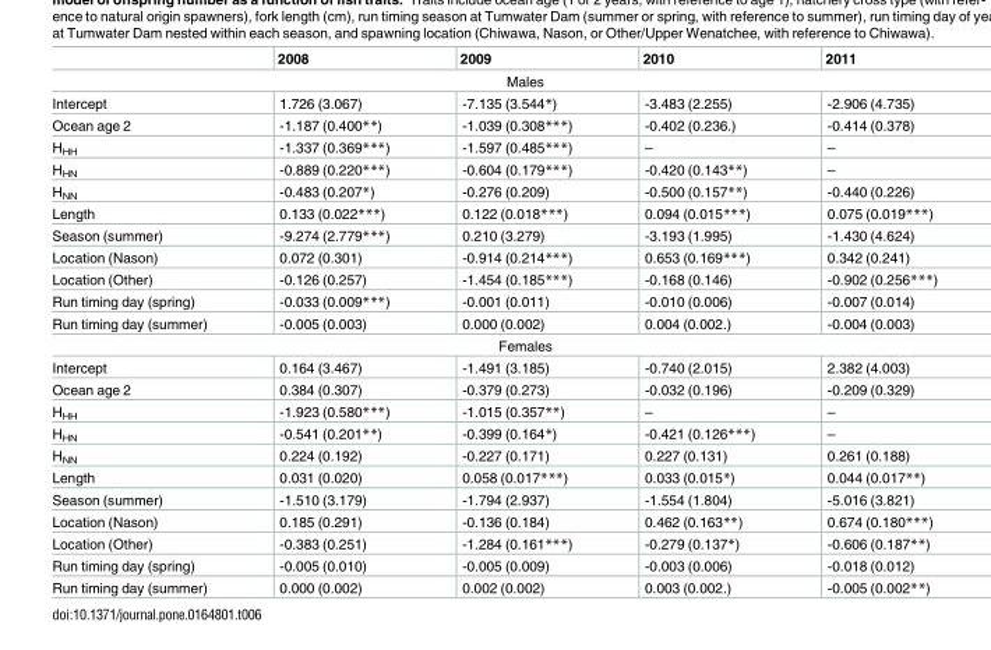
<table><thead><tr><td></td><td>2008</td><td>2009</td><td>2010</td><td>2011</td></tr></thead><tbody><tr><td colspan="5">Males</td></tr><tr><td>Intercept</td><td>1.726 (3.067)</td><td>-7.135 (3.544*)</td><td>-3.483 (2.255)</td><td>-2.906 (4.735)</td></tr><tr><td>Ocean age 2</td><td>-1.187 (0.400**)</td><td>-1.039 (0.308***)</td><td>-0.402 (0.236.)</td><td>-0.414 (0.378)</td></tr><tr><td>H<sub>HH</sub></td><td>-1.337 (0.369***)</td><td>-1.597 (0.485***)</td><td>–</td><td>–</td></tr><tr><td>H<sub>HN</sub></td><td>-0.889 (0.220***)</td><td>-0.604 (0.179***)</td><td>-0.420 (0.143**)</td><td>–</td></tr><tr><td>H<sub>NN</sub></td><td>-0.483 (0.207*)</td><td>-0.276 (0.209)</td><td>-0.500 (0.157**)</td><td>-0.440 (0.226)</td></tr><tr><td>Length</td><td>0.133 (0.022***)</td><td>0.122 (0.018***)</td><td>0.094 (0.015***)</td><td>0.075 (0.019***)</td></tr><tr><td>Season (summer)</td><td>-9.274 (2.779***)</td><td>0.210 (3.279)</td><td>-3.193 (1.995)</td><td>-1.430 (4.624)</td></tr><tr><td>Location (Nason)</td><td>0.072 (0.301)</td><td>-0.914 (0.214***)</td><td>0.653 (0.169***)</td><td>0.342 (0.241)</td></tr><tr><td>Location (Other)</td><td>-0.126 (0.257)</td><td>-1.454 (0.185***)</td><td>-0.168 (0.146)</td><td>-0.902 (0.256***)</td></tr><tr><td>Run timing day (spring)</td><td>-0.033 (0.009***)</td><td>-0.001 (0.011)</td><td>-0.010 (0.006)</td><td>-0.007 (0.014)</td></tr><tr><td>Run timing day (summer)</td><td>-0.005 (0.003)</td><td>0.000 (0.002)</td><td>0.004 (0.002.)</td><td>-0.004 (0.003)</td></tr><tr><td colspan="5">Females</td></tr><tr><td>Intercept</td><td>0.164 (3.467)</td><td>-1.491 (3.185)</td><td>-0.740 (2.015)</td><td>2.382 (4.003)</td></tr><tr><td>Ocean age 2</td><td>0.384 (0.307)</td><td>-0.379 (0.273)</td><td>-0.032 (0.196)</td><td>-0.209 (0.329)</td></tr><tr><td>H<sub>HH</sub></td><td>-1.923 (0.580***)</td><td>-1.015 (0.357**)</td><td>–</td><td>–</td></tr><tr><td>H<sub>HN</sub></td><td>-0.541 (0.201**)</td><td>-0.399 (0.164*)</td><td>-0.421 (0.126***)</td><td>–</td></tr><tr><td>H<sub>NN</sub></td><td>0.224 (0.192)</td><td>-0.227 (0.171)</td><td>0.227 (0.131)</td><td>0.261 (0.188)</td></tr><tr><td>Length</td><td>0.031 (0.020)</td><td>0.058 (0.017***)</td><td>0.033 (0.015*)</td><td>0.044 (0.017**)</td></tr><tr><td>Season (summer)</td><td>-1.510 (3.179)</td><td>-1.794 (2.937)</td><td>-1.554 (1.804)</td><td>-5.016 (3.821)</td></tr><tr><td>Location (Nason)</td><td>0.185 (0.291)</td><td>-0.136 (0.184)</td><td>0.462 (0.163**)</td><td>0.674 (0.180***)</td></tr><tr><td>Location (Other)</td><td>-0.383 (0.251)</td><td>-1.284 (0.161***)</td><td>-0.279 (0.137*)</td><td>-0.606 (0.187**)</td></tr><tr><td>Run timing day (spring)</td><td>-0.005 (0.010)</td><td>-0.005 (0.009)</td><td>-0.003 (0.006)</td><td>-0.018 (0.012)</td></tr><tr><td>Run timing day (summer)</td><td>0.000 (0.002)</td><td>0.002 (0.002)</td><td>0.003 (0.002.)</td><td>-0.005 (0.002**)</td></tr></tbody></table>